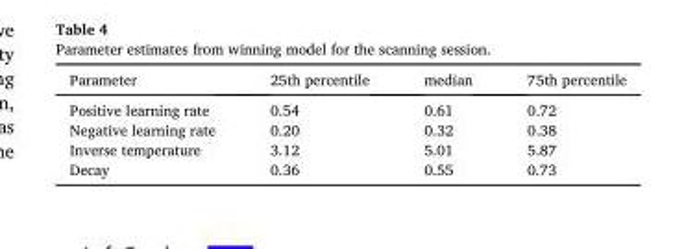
<table><thead><tr><td>Parameter</td><td>25th percentile</td><td>median</td><td>75th percentile</td></tr></thead><tbody><tr><td>Positive learning rate</td><td>0.54</td><td>0.61</td><td>0.72</td></tr><tr><td>Negative learning rate</td><td>0.20</td><td>0.32</td><td>0.38</td></tr><tr><td>Inverse temperature</td><td>3.12</td><td>5.01</td><td>5.87</td></tr><tr><td>Decay</td><td>0.36</td><td>0.55</td><td>0.73</td></tr></tbody></table>